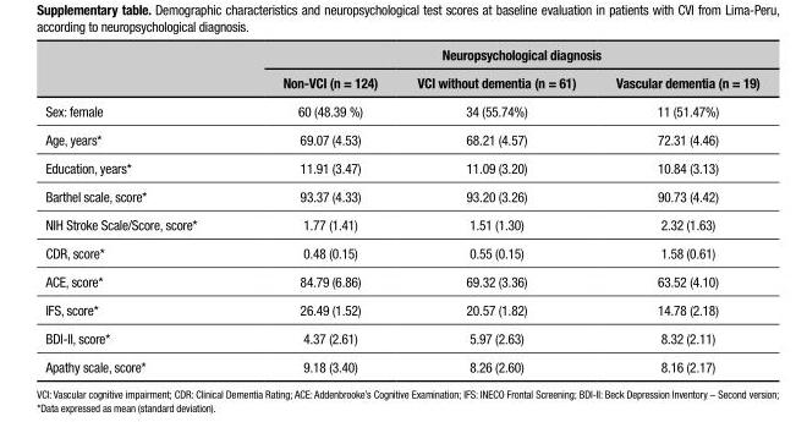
<table><thead><tr><td rowspan="2"></td><td colspan="3">Neuropsychological diagnosis</td></tr><tr><td>Non-VCI (n = 124)</td><td>VCI without dementia (n = 61)</td><td>Vascular dementia (n = 19)</td></tr></thead><tbody><tr><td>Sex: female</td><td>60 (48.39 %)</td><td>34 (55.74%)</td><td>11 (51.47%)</td></tr><tr><td>Age, years*</td><td>69.07 (4.53)</td><td>68.21 (4.57)</td><td>72.31 (4.46)</td></tr><tr><td>Education, years*</td><td>11.91 (3.47)</td><td>11.09 (3.20)</td><td>10.84 (3.13)</td></tr><tr><td>Barthel scale, score*</td><td>93.37 (4.33)</td><td>93.20 (3.26)</td><td>90.73 (4.42)</td></tr><tr><td>NIH Stroke Scale/Score, score*</td><td>1.77 (1.41)</td><td>1.51 (1.30)</td><td>2.32 (1.63)</td></tr><tr><td>CDR, score*</td><td>0.48 (0.15)</td><td>0.55 (0.15)</td><td>1.58 (0.61)</td></tr><tr><td>ACE, score*</td><td>84.79 (6.86)</td><td>69.32 (3.36)</td><td>63.52 (4.10)</td></tr><tr><td>IFS, score*</td><td>26.49 (1.52)</td><td>20.57 (1.82)</td><td>14.78 (2.18)</td></tr><tr><td>BDI-II, score*</td><td>4.37 (2.61)</td><td>5.97 (2.63)</td><td>8.32 (2.11)</td></tr><tr><td>Apathy scale, score*</td><td>9.18 (3.40)</td><td>8.26 (2.60)</td><td>8.16 (2.17)</td></tr></tbody></table>